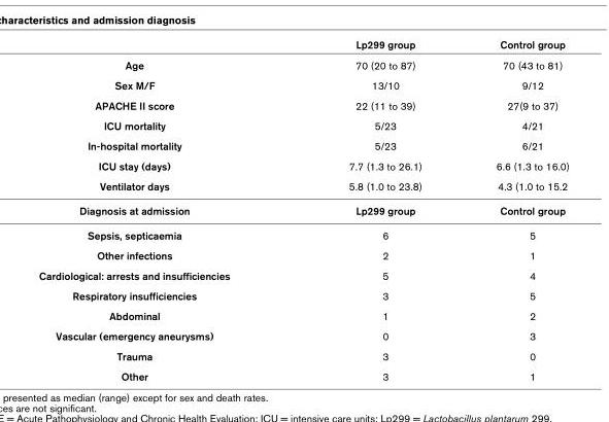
<table><thead><tr><td></td><td>Lp299 group</td><td>Control group</td></tr></thead><tbody><tr><td>Age</td><td>70 (20 to 87)</td><td>70 (43 to 81)</td></tr><tr><td>Sex M/F</td><td>13/10</td><td>9/12</td></tr><tr><td>APACHE II score</td><td>22 (11 to 39)</td><td>27(9 to 37)</td></tr><tr><td>ICU mortality</td><td>5/23</td><td>4/21</td></tr><tr><td>In-hospital mortality</td><td>5/23</td><td>6/21</td></tr><tr><td>ICU stay (days)</td><td>7.7 (1.3 to 26.1)</td><td>6.6 (1.3 to 16.0)</td></tr><tr><td>Ventilator days</td><td>5.8 (1.0 to 23.8)</td><td>4.3 (1.0 to 15.2</td></tr><tr><td>Diagnosis at admission</td><td>Lp299 group</td><td>Control group</td></tr><tr><td>Sepsis, septicaemia</td><td>6</td><td>5</td></tr><tr><td>Other infections</td><td>2</td><td>1</td></tr><tr><td>Cardiological: arrests and insufficiencies</td><td>5</td><td>4</td></tr><tr><td>Respiratory insufficiencies</td><td>3</td><td>5</td></tr><tr><td>Abdominal</td><td>1</td><td>2</td></tr><tr><td>Vascular (emergency aneurysms)</td><td>0</td><td>3</td></tr><tr><td>Trauma</td><td>3</td><td>0</td></tr><tr><td>Other</td><td>3</td><td>1</td></tr></tbody></table>